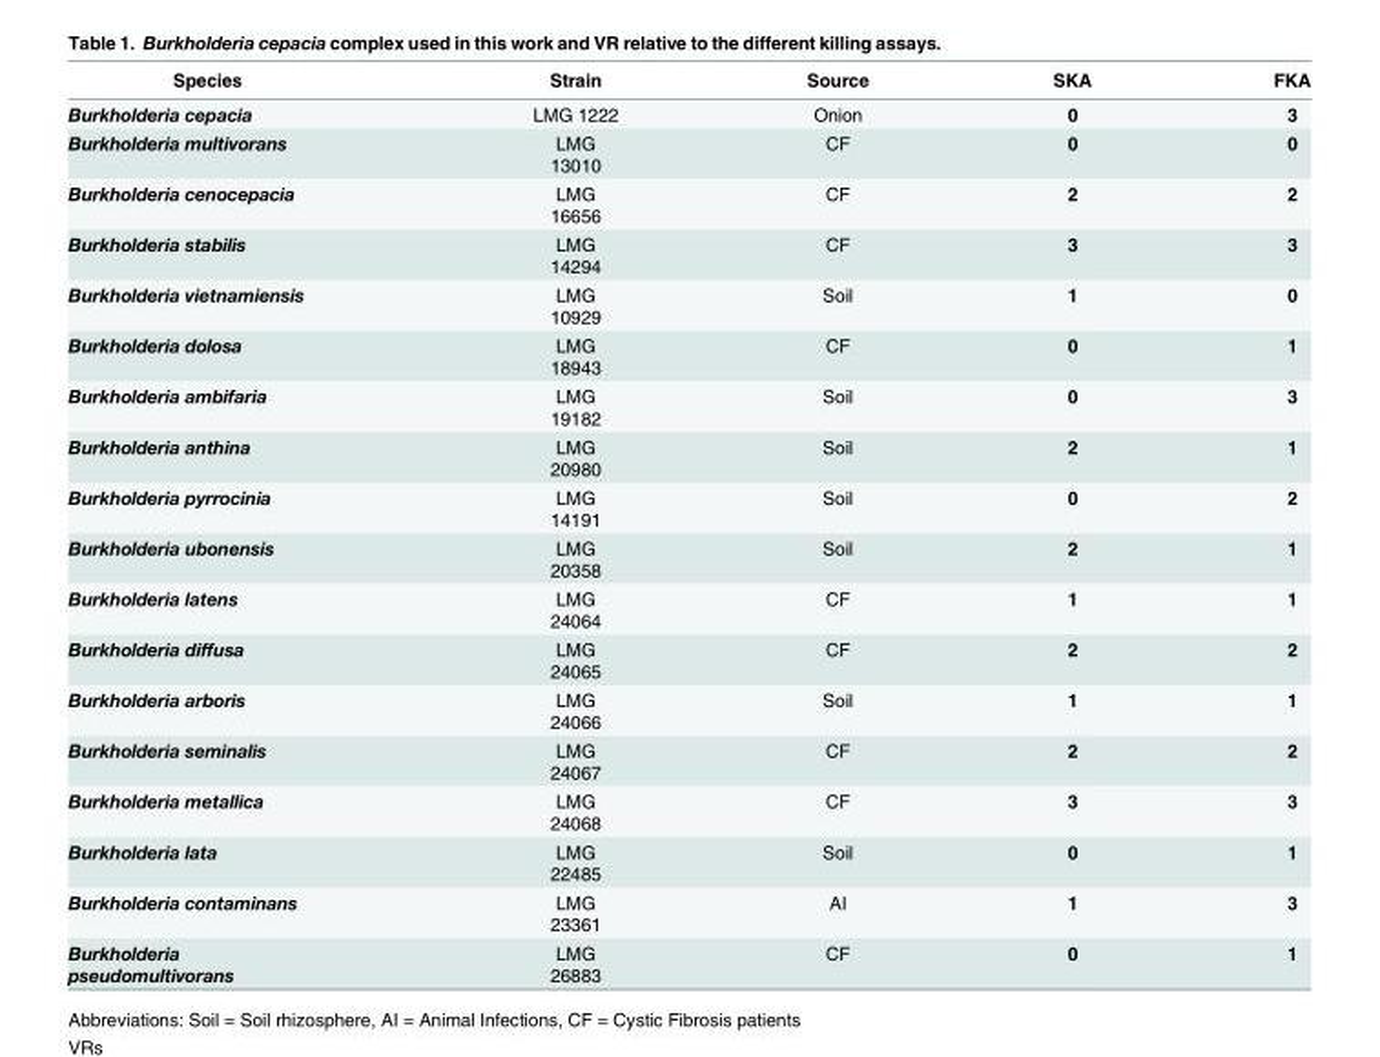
<table><thead><tr><td>Species</td><td>Strain</td><td>Source</td><td>SKA</td><td>FKA</td></tr></thead><tbody><tr><td>Burkholderia cepacia</td><td>LMG 1222</td><td>Onion</td><td>0</td><td>3</td></tr><tr><td>Burkholderia multivorans</td><td>LMG 13010</td><td>CF</td><td>0</td><td>0</td></tr><tr><td>Burkholderia cenocepacia</td><td>LMG 16656</td><td>CF</td><td>2</td><td>2</td></tr><tr><td>Burkholderia stabilis</td><td>LMG 14294</td><td>CF</td><td>3</td><td>3</td></tr><tr><td>Burkholderia vietnamiensis</td><td>LMG 10929</td><td>Soil</td><td>1</td><td>0</td></tr><tr><td>Burkholderia dolosa</td><td>LMG 18943</td><td>CF</td><td>0</td><td>1</td></tr><tr><td>Burkholderia ambifaria</td><td>LMG 19182</td><td>Soil</td><td>0</td><td>3</td></tr><tr><td>Burkholderia anthina</td><td>LMG 20980</td><td>Soil</td><td>2</td><td>1</td></tr><tr><td>Burkholderia pyrrocinia</td><td>LMG 14191</td><td>Soil</td><td>0</td><td>2</td></tr><tr><td>Burkholderia ubonensis</td><td>LMG 20358</td><td>Soil</td><td>2</td><td>1</td></tr><tr><td>Burkholderia latens</td><td>LMG 24064</td><td>CF</td><td>1</td><td>1</td></tr><tr><td>Burkholderia diffusa</td><td>LMG 24065</td><td>CF</td><td>2</td><td>2</td></tr><tr><td>Burkholderia arboris</td><td>LMG 24066</td><td>Soil</td><td>1</td><td>1</td></tr><tr><td>Burkholderia seminalis</td><td>LMG 24067</td><td>CF</td><td>2</td><td>2</td></tr><tr><td>Burkholderia metallica</td><td>LMG 24068</td><td>CF</td><td>3</td><td>3</td></tr><tr><td>Burkholderia lata</td><td>LMG 22485</td><td>Soil</td><td>0</td><td>1</td></tr><tr><td>Burkholderia contaminans</td><td>LMG 23361</td><td>AI</td><td>1</td><td>3</td></tr><tr><td>Burkholderia pseudomultivorans</td><td>LMG 26883</td><td>CF</td><td>0</td><td>1</td></tr></tbody></table>